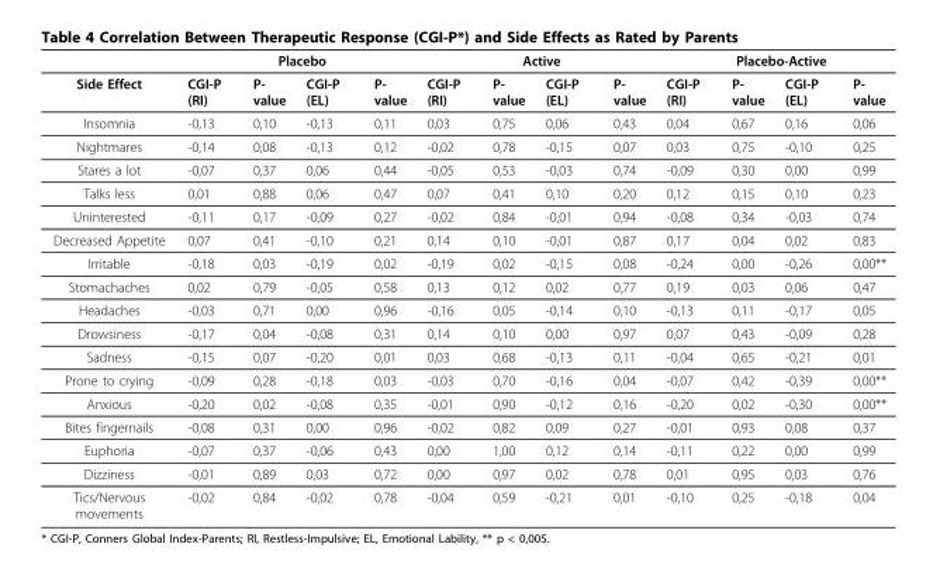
<table><thead><tr><td rowspan="2">Side Effect</td><td colspan="4">Placebo</td><td colspan="4">Active</td><td colspan="4">Placebo-Active</td></tr><tr><td>CGI-P (RI)</td><td>P- value</td><td>CGI-P (EL)</td><td>P- value</td><td>CGI-P (RI)</td><td>P- value</td><td>CGI-P (EL)</td><td>P- value</td><td>CGI-P (RI)</td><td>P- value</td><td>CGI-P (EL)</td><td>P- value</td></tr></thead><tbody><tr><td>Insomnia</td><td>-0,13</td><td>0,10</td><td>-0,13</td><td>0,11</td><td>0,03</td><td>0,75</td><td>0,06</td><td>0,43</td><td>0,04</td><td>0,67</td><td>0,16</td><td>0,06</td></tr><tr><td>Nightmares</td><td>-0,14</td><td>0,08</td><td>-0,13</td><td>0,12</td><td>-0,02</td><td>0,78</td><td>-0,15</td><td>0,07</td><td>0,03</td><td>0,75</td><td>-0,10</td><td>0,25</td></tr><tr><td>Stares a lot</td><td>-0,07</td><td>0,37</td><td>0,06</td><td>0,44</td><td>-0,05</td><td>0,53</td><td>-0,03</td><td>0,74</td><td>-0,09</td><td>0,30</td><td>0,00</td><td>0,99</td></tr><tr><td>Talks less</td><td>0,01</td><td>0,88</td><td>0,06</td><td>0,47</td><td>0,07</td><td>0,41</td><td>0,10</td><td>0,20</td><td>0,12</td><td>0,15</td><td>0,10</td><td>0,23</td></tr><tr><td>Uninterested</td><td>-0,11</td><td>0,17</td><td>-0,09</td><td>0,27</td><td>-0,02</td><td>0,84</td><td>-0,01</td><td>0,94</td><td>-0,08</td><td>0,34</td><td>-0,03</td><td>0,74</td></tr><tr><td>Decreased Appetite</td><td>0,07</td><td>0,41</td><td>-0,10</td><td>0,21</td><td>0,14</td><td>0,10</td><td>-0,01</td><td>0,87</td><td>0,17</td><td>0,04</td><td>0,02</td><td>0,83</td></tr><tr><td>Irritable</td><td>-0,18</td><td>0,03</td><td>-0,19</td><td>0,02</td><td>-0,19</td><td>0,02</td><td>-0,15</td><td>0,08</td><td>-0,24</td><td>0,00</td><td>-0,26</td><td>0,00**</td></tr><tr><td>Stomachaches</td><td>0,02</td><td>0,79</td><td>-0,05</td><td>0,58</td><td>0,13</td><td>0,12</td><td>0,02</td><td>0,77</td><td>0,19</td><td>0,03</td><td>0,06</td><td>0,47</td></tr><tr><td>Headaches</td><td>-0,03</td><td>0,71</td><td>0,00</td><td>0,96</td><td>-0,16</td><td>0,05</td><td>-0,14</td><td>0,10</td><td>-0,13</td><td>0,11</td><td>-0,17</td><td>0,05</td></tr><tr><td>Drowsiness</td><td>-0,17</td><td>0,04</td><td>-0,08</td><td>0,31</td><td>0,14</td><td>0,10</td><td>0,00</td><td>0,97</td><td>0,07</td><td>0,43</td><td>-0,09</td><td>0,28</td></tr><tr><td>Sadness</td><td>-0,15</td><td>0,07</td><td>-0,20</td><td>0,01</td><td>0,03</td><td>0,68</td><td>-0,13</td><td>0,11</td><td>-0,04</td><td>0,65</td><td>-0,21</td><td>0,01</td></tr><tr><td>Prone to crying</td><td>-0,09</td><td>0,28</td><td>-0,18</td><td>0,03</td><td>-0,03</td><td>0,70</td><td>-0,16</td><td>0,04</td><td>-0,07</td><td>0,42</td><td>-0,39</td><td>0,00**</td></tr><tr><td>Anxious</td><td>-0,20</td><td>0,02</td><td>-0,08</td><td>0,35</td><td>-0,01</td><td>0,90</td><td>-0,12</td><td>0,16</td><td>-0,20</td><td>0,02</td><td>-0,30</td><td>0,00**</td></tr><tr><td>Bites fingernails</td><td>-0,08</td><td>0,31</td><td>0,00</td><td>0,96</td><td>-0,02</td><td>0,82</td><td>0,09</td><td>0,27</td><td>-0,01</td><td>0,93</td><td>0,08</td><td>0,37</td></tr><tr><td>Euphoria</td><td>-0,07</td><td>0,37</td><td>-0,06</td><td>0,43</td><td>0,00</td><td>1,00</td><td>0,12</td><td>0,14</td><td>-0,11</td><td>0,22</td><td>0,00</td><td>0,99</td></tr><tr><td>Dizziness</td><td>-0,01</td><td>0,89</td><td>0,03</td><td>0,72</td><td>0,00</td><td>0,97</td><td>0,02</td><td>0,78</td><td>0,01</td><td>0,95</td><td>0,03</td><td>0,76</td></tr><tr><td>Tics/Nervous movements</td><td>-0,02</td><td>0,84</td><td>-0,02</td><td>0,78</td><td>-0,04</td><td>0,59</td><td>-0,21</td><td>0,01</td><td>-0,10</td><td>0,25</td><td>-0,18</td><td>0,04</td></tr></tbody></table>